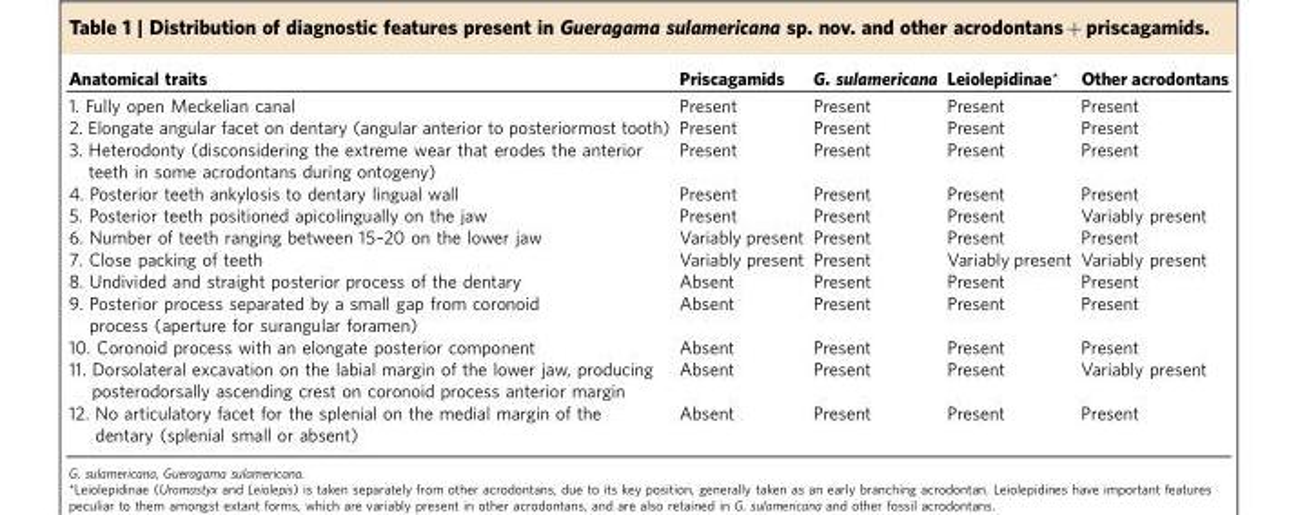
<table><thead><tr><td>Anatomical traits</td><td>Priscagamids</td><td>G. sulamericana</td><td>Leiolepidinae*</td><td>Other acrodontans</td></tr></thead><tbody><tr><td>1. Fully open Meckelian canal</td><td>Present</td><td>Present</td><td>Present</td><td>Present</td></tr><tr><td>2. Elongate angular facet on dentary (angular anterior to posteriormost tooth)</td><td>Present</td><td>Present</td><td>Present</td><td>Present</td></tr><tr><td>3. Heterodonty (disconsidering the extreme wear that erodes the anterior teeth in some acrodontans during ontogeny)</td><td>Present</td><td>Present</td><td>Present</td><td>Present</td></tr><tr><td>4. Posterior teeth ankylosis to dentary lingual wall</td><td>Present</td><td>Present</td><td>Present</td><td>Present</td></tr><tr><td>5. Posterior teeth positioned apicolingually on the jaw</td><td>Present</td><td>Present</td><td>Present</td><td>Variably present</td></tr><tr><td>6. Number of teeth ranging between 15–20 on the lower jaw</td><td>Variably present</td><td>Present</td><td>Present</td><td>Present</td></tr><tr><td>7. Close packing of teeth</td><td>Variably present</td><td>Present</td><td>Variably present</td><td>Variably present</td></tr><tr><td>8. Undivided and straight posterior process of the dentary</td><td>Absent</td><td>Present</td><td>Present</td><td>Present</td></tr><tr><td>9. Posterior process separated by a small gap from coronoid process (aperture for surangular foramen)</td><td>Absent</td><td>Present</td><td>Present</td><td>Present</td></tr><tr><td>10. Coronoid process with an elongate posterior component</td><td>Absent</td><td>Present</td><td>Present</td><td>Present</td></tr><tr><td>11. Dorsolateral excavation on the labial margin of the lower jaw, producing posterodorsally ascending crest on coronoid process anterior margin</td><td>Absent</td><td>Present</td><td>Present</td><td>Variably present</td></tr><tr><td>12. No articulatory facet for the splenial on the medial margin of the dentary (splenial small or absent)</td><td>Absent</td><td>Present</td><td>Present</td><td>Present</td></tr></tbody></table>